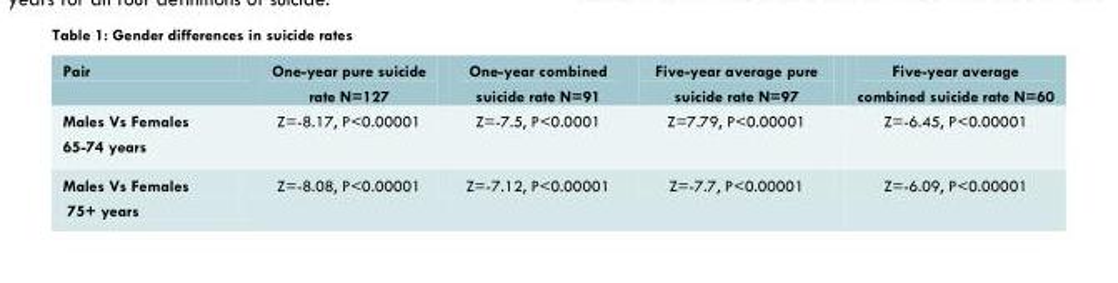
<table><thead><tr><td>Pair</td><td>One-year pure suicide rate N=127</td><td>One-year combined suicide rate N=91</td><td>Five-year average pure suicide rate N=97</td><td>Five-year average combined suicide rate N=60</td></tr></thead><tbody><tr><td>Males Vs Females 65-74 years</td><td>Z=-8.17, P&lt;0.00001</td><td>Z=-7.5, P&lt;0.0001</td><td>Z=7.79, P&lt;0.00001</td><td>Z=-6.45, P&lt;0.00001</td></tr><tr><td>Males Vs Females 75+ years</td><td>Z=-8.08, P&lt;0.00001</td><td>Z=-7.12, P&lt;0.00001</td><td>Z=-7.7, P&lt;0.00001</td><td>Z=-6.09, P&lt;0.00001</td></tr></tbody></table>